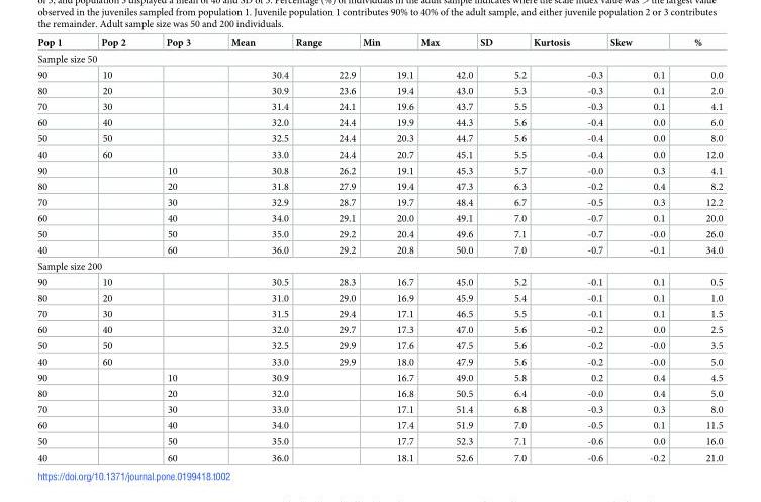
<table><thead><tr><td>Pop 1</td><td>Pop 2</td><td>Pop 3</td><td>Mean</td><td>Range</td><td>Min</td><td>Max</td><td>SD</td><td>Kurtosis</td><td>Skew</td><td>%</td></tr></thead><tbody><tr><td colspan="11">Sample size 50</td></tr><tr><td>90</td><td>10</td><td></td><td>30.4</td><td>22.9</td><td>19.1</td><td>42.0</td><td>5.2</td><td>-0.3</td><td>0.1</td><td>0.0</td></tr><tr><td>80</td><td>20</td><td></td><td>30.9</td><td>23.6</td><td>19.4</td><td>43.0</td><td>5.3</td><td>-0.3</td><td>0.1</td><td>2.0</td></tr><tr><td>70</td><td>30</td><td></td><td>31.4</td><td>24.1</td><td>19.6</td><td>43.7</td><td>5.5</td><td>-0.3</td><td>0.1</td><td>4.1</td></tr><tr><td>60</td><td>40</td><td></td><td>32.0</td><td>24.4</td><td>19.9</td><td>44.3</td><td>5.6</td><td>-0.4</td><td>0.0</td><td>6.0</td></tr><tr><td>50</td><td>50</td><td></td><td>32.5</td><td>24.4</td><td>20.3</td><td>44.7</td><td>5.6</td><td>-0.4</td><td>0.0</td><td>8.0</td></tr><tr><td>40</td><td>60</td><td></td><td>33.0</td><td>24.4</td><td>20.7</td><td>45.1</td><td>5.5</td><td>-0.4</td><td>0.0</td><td>12.0</td></tr><tr><td>90</td><td></td><td>10</td><td>30.8</td><td>26.2</td><td>19.1</td><td>45.3</td><td>5.7</td><td>-0.0</td><td>0.3</td><td>4.1</td></tr><tr><td>80</td><td></td><td>20</td><td>31.8</td><td>27.9</td><td>19.4</td><td>47.3</td><td>6.3</td><td>-0.2</td><td>0.4</td><td>8.2</td></tr><tr><td>70</td><td></td><td>30</td><td>32.9</td><td>28.7</td><td>19.7</td><td>48.4</td><td>6.7</td><td>-0.5</td><td>0.3</td><td>12.2</td></tr><tr><td>60</td><td></td><td>40</td><td>34.0</td><td>29.1</td><td>20.0</td><td>49.1</td><td>7.0</td><td>-0.7</td><td>0.1</td><td>20.0</td></tr><tr><td>50</td><td></td><td>50</td><td>35.0</td><td>29.2</td><td>20.4</td><td>49.6</td><td>7.1</td><td>-0.7</td><td>-0.0</td><td>26.0</td></tr><tr><td>40</td><td></td><td>60</td><td>36.0</td><td>29.2</td><td>20.8</td><td>50.0</td><td>7.0</td><td>-0.7</td><td>-0.1</td><td>34.0</td></tr><tr><td colspan="11">Sample size 200</td></tr><tr><td>90</td><td>10</td><td></td><td>30.5</td><td>28.3</td><td>16.7</td><td>45.0</td><td>5.2</td><td>-0.1</td><td>0.1</td><td>0.5</td></tr><tr><td>80</td><td>20</td><td></td><td>31.0</td><td>29.0</td><td>16.9</td><td>45.9</td><td>5.4</td><td>-0.1</td><td>0.1</td><td>1.0</td></tr><tr><td>70</td><td>30</td><td></td><td>31.5</td><td>29.4</td><td>17.1</td><td>46.5</td><td>5.5</td><td>-0.1</td><td>0.1</td><td>1.5</td></tr><tr><td>60</td><td>40</td><td></td><td>32.0</td><td>29.7</td><td>17.3</td><td>47.0</td><td>5.6</td><td>-0.2</td><td>0.0</td><td>2.5</td></tr><tr><td>50</td><td>50</td><td></td><td>32.5</td><td>29.9</td><td>17.6</td><td>47.5</td><td>5.6</td><td>-0.2</td><td>-0.0</td><td>3.5</td></tr><tr><td>40</td><td>60</td><td></td><td>33.0</td><td>29.9</td><td>18.0</td><td>47.9</td><td>5.6</td><td>-0.2</td><td>-0.0</td><td>5.0</td></tr><tr><td>90</td><td></td><td>10</td><td>30.9</td><td></td><td>16.7</td><td>49.0</td><td>5.8</td><td>0.2</td><td>0.4</td><td>4.5</td></tr><tr><td>80</td><td></td><td>20</td><td>32.0</td><td></td><td>16.8</td><td>50.5</td><td>6.4</td><td>-0.0</td><td>0.4</td><td>5.0</td></tr><tr><td>70</td><td></td><td>30</td><td>33.0</td><td></td><td>17.1</td><td>51.4</td><td>6.8</td><td>-0.3</td><td>0.3</td><td>8.0</td></tr><tr><td>60</td><td></td><td>40</td><td>34.0</td><td></td><td>17.4</td><td>51.9</td><td>7.0</td><td>-0.5</td><td>0.1</td><td>11.5</td></tr><tr><td>50</td><td></td><td>50</td><td>35.0</td><td></td><td>17.7</td><td>52.3</td><td>7.1</td><td>-0.6</td><td>0.0</td><td>16.0</td></tr><tr><td>40</td><td></td><td>60</td><td>36.0</td><td></td><td>18.1</td><td>52.6</td><td>7.0</td><td>-0.6</td><td>-0.2</td><td>21.0</td></tr></tbody></table>